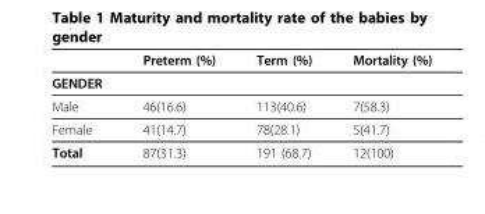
<table><thead><tr><td></td><td>Preterm (%)</td><td>Term (%)</td><td>Mortality (%)</td></tr></thead><tbody><tr><td colspan="4">GENDER</td></tr><tr><td>Male</td><td>46(16.6)</td><td>113(40.6)</td><td>7(58.3)</td></tr><tr><td>Female</td><td>41(14.7)</td><td>78(28.1)</td><td>5(41.7)</td></tr><tr><td>Total</td><td>87(31.3)</td><td>191 (68.7)</td><td>12(100)</td></tr></tbody></table>